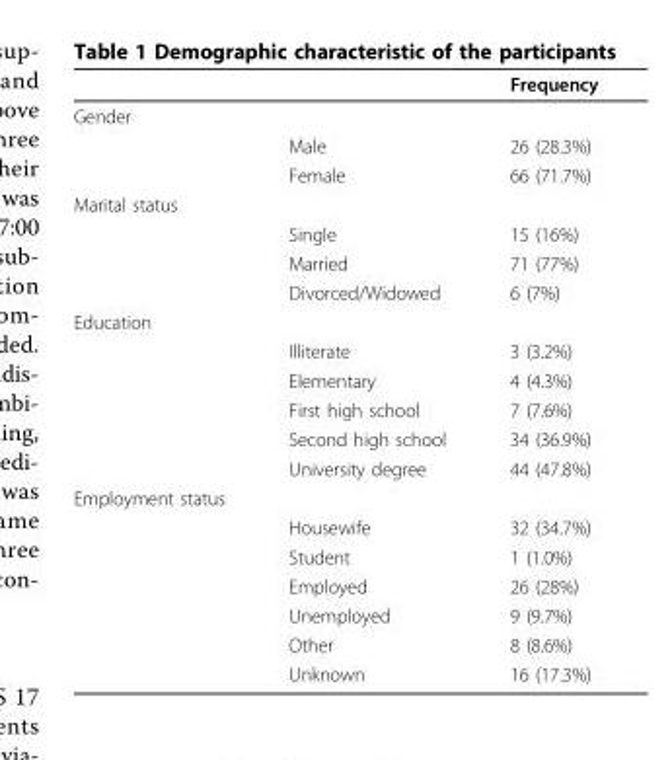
<table><thead><tr><td></td><td></td><td>Frequency</td></tr></thead><tbody><tr><td colspan="3">Gender</td></tr><tr><td></td><td>Male</td><td>26 (28.3%)</td></tr><tr><td></td><td>Female</td><td>66 (71.7%)</td></tr><tr><td colspan="3">Marital status</td></tr><tr><td></td><td>Single</td><td>15 (16%)</td></tr><tr><td></td><td>Married</td><td>71 (77%)</td></tr><tr><td></td><td>Divorced/Widowed</td><td>6 (7%)</td></tr><tr><td colspan="3">Education</td></tr><tr><td></td><td>Illiterate</td><td>3 (3.2%)</td></tr><tr><td></td><td>Elementary</td><td>4 (4.3%)</td></tr><tr><td></td><td>First high school</td><td>7 (7.6%)</td></tr><tr><td></td><td>Second high school</td><td>34 (36.9%)</td></tr><tr><td></td><td>University degree</td><td>44 (47.8%)</td></tr><tr><td colspan="3">Employment status</td></tr><tr><td></td><td>Housewife</td><td>32 (34.7%)</td></tr><tr><td></td><td>Student</td><td>1 (1.0%)</td></tr><tr><td></td><td>Employed</td><td>26 (28%)</td></tr><tr><td></td><td>Unemployed</td><td>9 (9.7%)</td></tr><tr><td></td><td>Other</td><td>8 (8.6%)</td></tr><tr><td></td><td>Unknown</td><td>16 (17.3%)</td></tr></tbody></table>